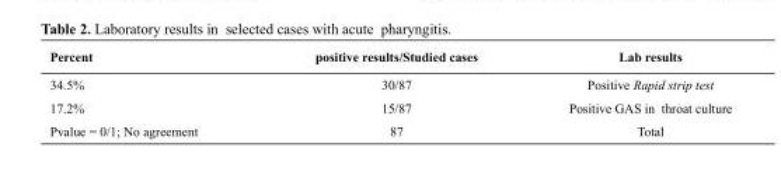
<table><thead><tr><td>percent</td><td>positive results/Studied cases</td><td>Lab results</td></tr></thead><tbody><tr><td>34.5%</td><td>30/87</td><td>Positive Rapid strip test</td></tr><tr><td>17.2%</td><td>15/87</td><td>Positive GAS in throat culture</td></tr><tr><td>Pvalue = 0/1; No agreement</td><td>87</td><td>Total</td></tr></tbody></table>